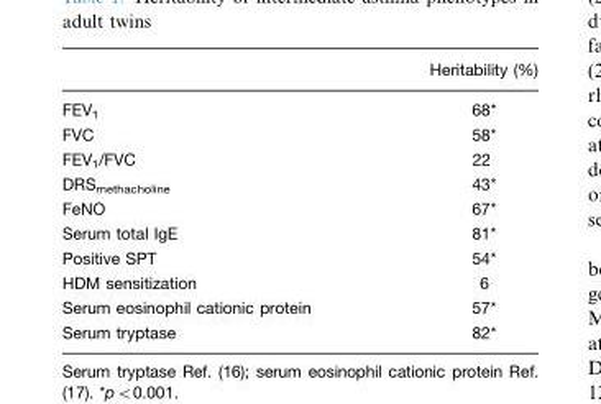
<table><thead><tr><td></td><td>Heritability (%)</td></tr></thead><tbody><tr><td>FEV<sub>1</sub></td><td>68*</td></tr><tr><td>FVC</td><td>58*</td></tr><tr><td>FEV<sub>1</sub>/FVC</td><td>22</td></tr><tr><td>DRS<sub>methacholine</sub></td><td>43*</td></tr><tr><td>FeNO</td><td>67*</td></tr><tr><td>Serum total IgE</td><td>81*</td></tr><tr><td>Positive SPT</td><td>54*</td></tr><tr><td>HDM sensitization</td><td>6</td></tr><tr><td>Serum eosinophil cationic protein</td><td>57*</td></tr><tr><td>Serum tryptase</td><td>82*</td></tr></tbody></table>